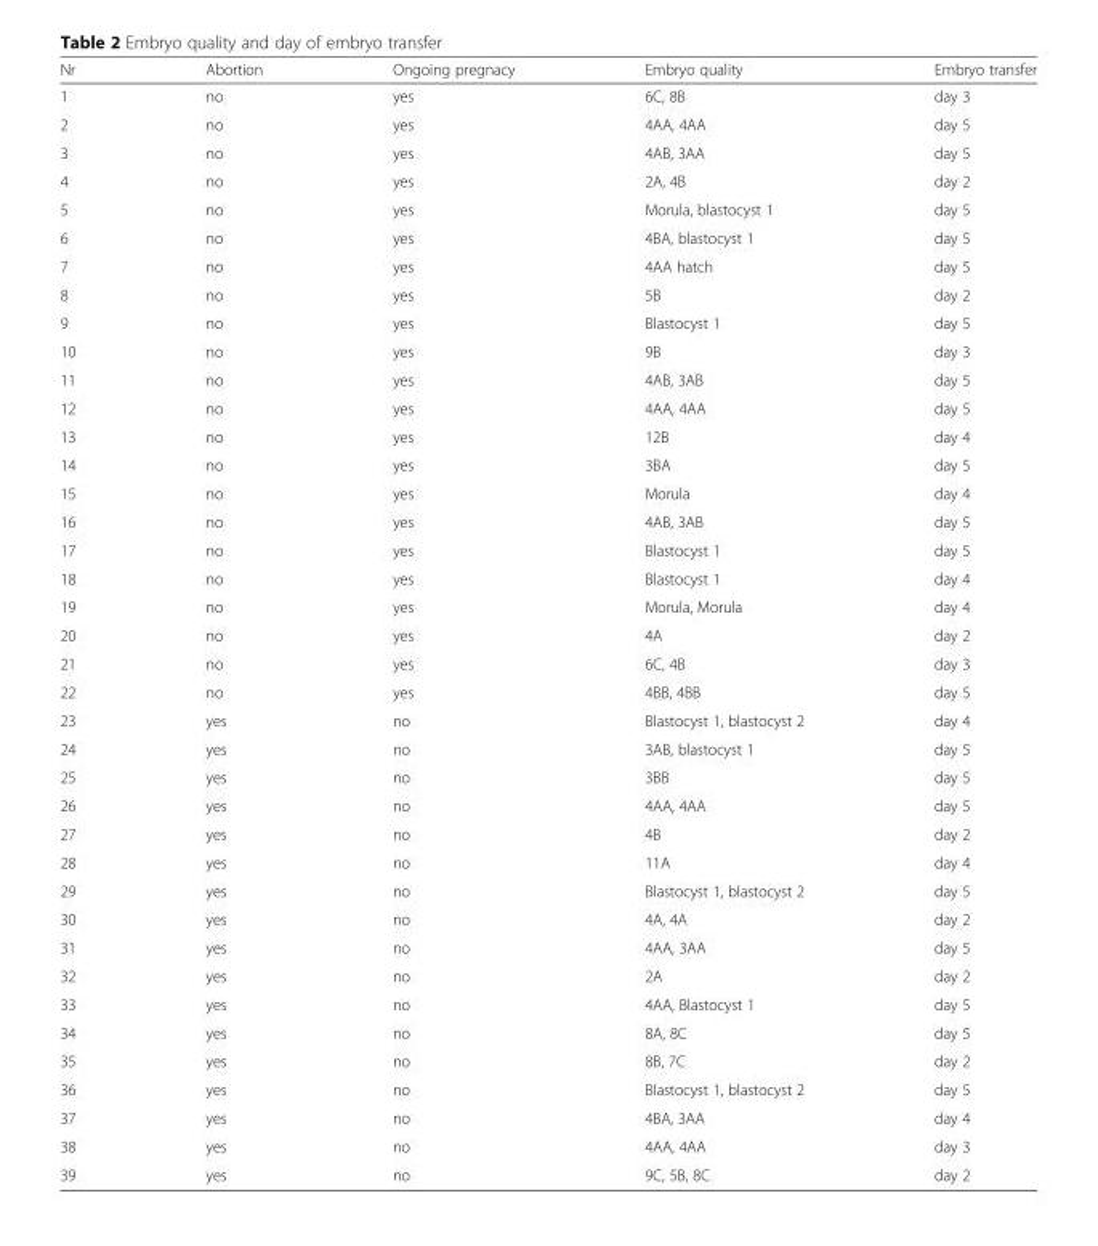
<table><thead><tr><td>Nr</td><td>Abortion</td><td>Ongoing pregnacy</td><td>Embryo quality</td><td>Embryo transfer</td></tr></thead><tbody><tr><td>1</td><td>no</td><td>yes</td><td>6C, 8B</td><td>day 3</td></tr><tr><td>2</td><td>no</td><td>yes</td><td>4AA, 4AA</td><td>day 5</td></tr><tr><td>3</td><td>no</td><td>yes</td><td>4AB, 3AA</td><td>day 5</td></tr><tr><td>4</td><td>no</td><td>yes</td><td>2A, 4B</td><td>day 2</td></tr><tr><td>5</td><td>no</td><td>yes</td><td>Morula, blastocyst 1</td><td>day 5</td></tr><tr><td>6</td><td>no</td><td>yes</td><td>4BA, blastocyst 1</td><td>day 5</td></tr><tr><td>7</td><td>no</td><td>yes</td><td>4AA hatch</td><td>day 5</td></tr><tr><td>8</td><td>no</td><td>yes</td><td>5B</td><td>day 2</td></tr><tr><td>9</td><td>no</td><td>yes</td><td>Blastocyst 1</td><td>day 5</td></tr><tr><td>10</td><td>no</td><td>yes</td><td>9B</td><td>day 3</td></tr><tr><td>11</td><td>no</td><td>yes</td><td>4AB, 3AB</td><td>day 5</td></tr><tr><td>12</td><td>no</td><td>yes</td><td>4AA, 4AA</td><td>day 5</td></tr><tr><td>13</td><td>no</td><td>yes</td><td>12B</td><td>day 4</td></tr><tr><td>14</td><td>no</td><td>yes</td><td>3BA</td><td>day 5</td></tr><tr><td>15</td><td>no</td><td>yes</td><td>Morula</td><td>day 4</td></tr><tr><td>16</td><td>no</td><td>yes</td><td>4AB, 3AB</td><td>day 5</td></tr><tr><td>17</td><td>no</td><td>yes</td><td>Blastocyst 1</td><td>day 5</td></tr><tr><td>18</td><td>no</td><td>yes</td><td>Blastocyst 1</td><td>day 4</td></tr><tr><td>19</td><td>no</td><td>yes</td><td>Morula, Morula</td><td>day 4</td></tr><tr><td>20</td><td>no</td><td>yes</td><td>4A</td><td>day 2</td></tr><tr><td>21</td><td>no</td><td>yes</td><td>6C, 4B</td><td>day 3</td></tr><tr><td>22</td><td>no</td><td>yes</td><td>4BB, 4BB</td><td>day 5</td></tr><tr><td>23</td><td>yes</td><td>no</td><td>Blastocyst 1, blastocyst 2</td><td>day 4</td></tr><tr><td>24</td><td>yes</td><td>no</td><td>3AB, blastocyst 1</td><td>day 5</td></tr><tr><td>25</td><td>yes</td><td>no</td><td>3BB</td><td>day 5</td></tr><tr><td>26</td><td>yes</td><td>no</td><td>4AA, 4AA</td><td>day 5</td></tr><tr><td>27</td><td>yes</td><td>no</td><td>4B</td><td>day 2</td></tr><tr><td>28</td><td>yes</td><td>no</td><td>11A</td><td>day 4</td></tr><tr><td>29</td><td>yes</td><td>no</td><td>Blastocyst 1, blastocyst 2</td><td>day 5</td></tr><tr><td>30</td><td>yes</td><td>no</td><td>4A, 4A</td><td>day 2</td></tr><tr><td>31</td><td>yes</td><td>no</td><td>4AA, 3AA</td><td>day 5</td></tr><tr><td>32</td><td>yes</td><td>no</td><td>2A</td><td>day 2</td></tr><tr><td>33</td><td>yes</td><td>no</td><td>4AA, Blastocyst 1</td><td>day 5</td></tr><tr><td>34</td><td>yes</td><td>no</td><td>8A, 8C</td><td>day 5</td></tr><tr><td>35</td><td>yes</td><td>no</td><td>8B, 7C</td><td>day 2</td></tr><tr><td>36</td><td>yes</td><td>no</td><td>Blastocyst 1, blastocyst 2</td><td>day 5</td></tr><tr><td>37</td><td>yes</td><td>no</td><td>4BA, 3AA</td><td>day 4</td></tr><tr><td>38</td><td>yes</td><td>no</td><td>4AA, 4AA</td><td>day 3</td></tr><tr><td>39</td><td>yes</td><td>no</td><td>9C, 5B, 8C</td><td>day 2</td></tr></tbody></table>